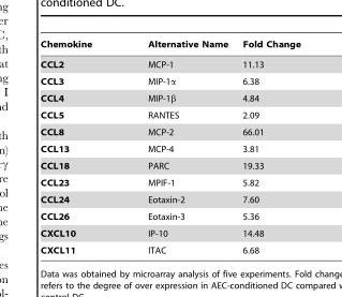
<table><thead><tr><td>Chemokine</td><td>Alternative Name</td><td>Fold Change</td></tr></thead><tbody><tr><td>CCL2</td><td>MCP-1</td><td>11.13</td></tr><tr><td>CCL3</td><td>MIP-1α</td><td>6.38</td></tr><tr><td>CCL4</td><td>MIP-1β</td><td>4.84</td></tr><tr><td>CCL5</td><td>RANTES</td><td>2.09</td></tr><tr><td>CCL8</td><td>MCP-2</td><td>66.01</td></tr><tr><td>CCL13</td><td>MCP-4</td><td>3.81</td></tr><tr><td>CCL18</td><td>PARC</td><td>19.33</td></tr><tr><td>CCL23</td><td>MPIF-1</td><td>5.82</td></tr><tr><td>CCL24</td><td>Eotaxin-2</td><td>7.60</td></tr><tr><td>CCL26</td><td>Eotaxin-3</td><td>5.36</td></tr><tr><td>CXCL10</td><td>IP-10</td><td>14.48</td></tr><tr><td>CXCL11</td><td>ITAC</td><td>6.68</td></tr></tbody></table>